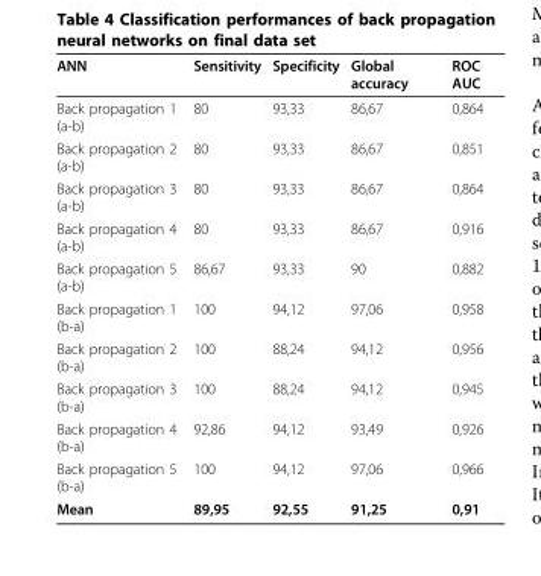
<table><thead><tr><td>ANN</td><td>Sensitivity</td><td>Specificity</td><td>Global accuracy</td><td>ROC AUC</td></tr></thead><tbody><tr><td>Back propagation 1 (a-b)</td><td>80</td><td>93,33</td><td>86,67</td><td>0,864</td></tr><tr><td>Back propagation 2 (a-b)</td><td>80</td><td>93,33</td><td>86,67</td><td>0,851</td></tr><tr><td>Back propagation 3 (a-b)</td><td>80</td><td>93,33</td><td>86,67</td><td>0,864</td></tr><tr><td>Back propagation 4 (a-b)</td><td>80</td><td>93,33</td><td>86,67</td><td>0,916</td></tr><tr><td>Back propagation 5 (a-b)</td><td>86,67</td><td>93,33</td><td>90</td><td>0,882</td></tr><tr><td>Back propagation 1 (b-a)</td><td>100</td><td>94,12</td><td>97,06</td><td>0,958</td></tr><tr><td>Back propagation 2 (b-a)</td><td>100</td><td>88,24</td><td>94,12</td><td>0,956</td></tr><tr><td>Back propagation 3 (b-a)</td><td>100</td><td>88,24</td><td>94,12</td><td>0,945</td></tr><tr><td>Back propagation 4 (b-a)</td><td>92,86</td><td>94,12</td><td>93,49</td><td>0,926</td></tr><tr><td>Back propagation 5 (b-a)</td><td>100</td><td>94,12</td><td>97,06</td><td>0,966</td></tr><tr><td>Mean</td><td>89,95</td><td>92,55</td><td>91,25</td><td>0,91</td></tr></tbody></table>